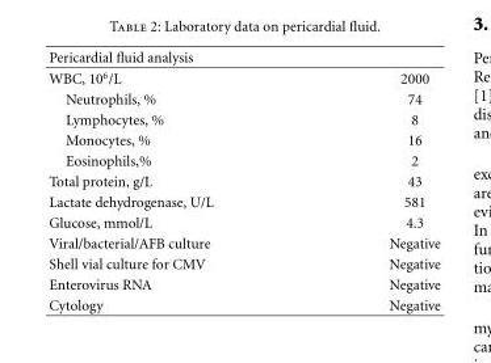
<table><thead><tr><td>Pericardial fluid analysis</td><td></td></tr></thead><tbody><tr><td>WBC, 10<sup>6</sup>/L</td><td>2000</td></tr><tr><td>Neutrophils, %</td><td>74</td></tr><tr><td>Lymphocytes, %</td><td>8</td></tr><tr><td>Monocytes, %</td><td>16</td></tr><tr><td>Eosinophils,%</td><td>2</td></tr><tr><td>Total protein, g/L</td><td>43</td></tr><tr><td>Lactate dehydrogenase, U/L</td><td>581</td></tr><tr><td>Glucose, mmol/L</td><td>4.3</td></tr><tr><td>Viral/bacterial/AFB culture</td><td>Negative</td></tr><tr><td>Shell vial culture for CMV</td><td>Negative</td></tr><tr><td>Enterovirus RNA</td><td>Negative</td></tr><tr><td>Cytology</td><td>Negative</td></tr></tbody></table>